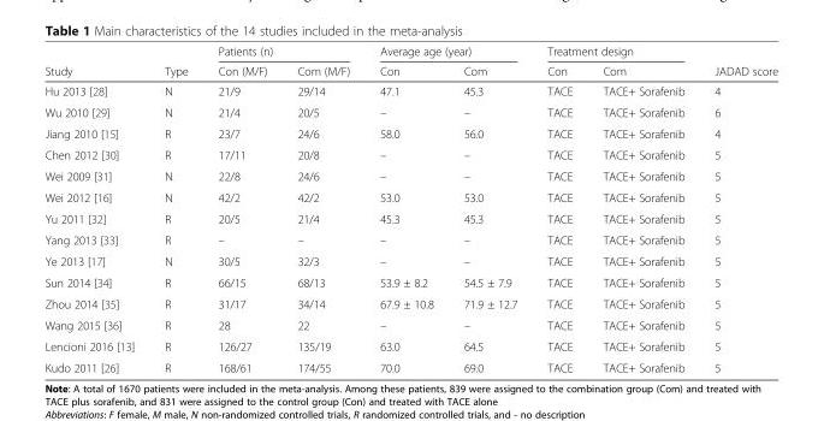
<table><thead><tr><td rowspan="2">Study</td><td rowspan="2">Type</td><td colspan="2">Patients (n)</td><td colspan="2">Average age (year)</td><td colspan="2">Treatment design</td><td rowspan="2">JADAD score</td></tr><tr><td>Con (M/F)</td><td>Com (M/F)</td><td>Con</td><td>Com</td><td>Con</td><td>Com</td></tr></thead><tbody><tr><td>Hu 2013 [28]</td><td>N</td><td>21/9</td><td>29/14</td><td>47.1</td><td>45.3</td><td>TACE</td><td>TACE+ Sorafenib</td><td>4</td></tr><tr><td>Wu 2010 [29]</td><td>N</td><td>21/4</td><td>20/5</td><td>–</td><td>–</td><td>TACE</td><td>TACE+ Sorafenib</td><td>6</td></tr><tr><td>Jiang 2010 [15]</td><td>R</td><td>23/7</td><td>24/6</td><td>58.0</td><td>56.0</td><td>TACE</td><td>TACE+ Sorafenib</td><td>4</td></tr><tr><td>Chen 2012 [30]</td><td>R</td><td>17/11</td><td>20/8</td><td>–</td><td>–</td><td>TACE</td><td>TACE+ Sorafenib</td><td>5</td></tr><tr><td>Wei 2009 [31]</td><td>N</td><td>22/8</td><td>24/6</td><td>–</td><td>–</td><td>TACE</td><td>TACE+ Sorafenib</td><td>5</td></tr><tr><td>Wei 2012 [16]</td><td>N</td><td>42/2</td><td>42/2</td><td>53.0</td><td>53.0</td><td>TACE</td><td>TACE+ Sorafenib</td><td>5</td></tr><tr><td>Yu 2011 [32]</td><td>R</td><td>20/5</td><td>21/4</td><td>45.3</td><td>45.3</td><td>TACE</td><td>TACE+ Sorafenib</td><td>5</td></tr><tr><td>Yang 2013 [33]</td><td>R</td><td>–</td><td>–</td><td>–</td><td>–</td><td>TACE</td><td>TACE+ Sorafenib</td><td>5</td></tr><tr><td>Ye 2013 [17]</td><td>N</td><td>30/5</td><td>32/3</td><td>–</td><td>–</td><td>TACE</td><td>TACE+ Sorafenib</td><td>5</td></tr><tr><td>Sun 2014 [34]</td><td>R</td><td>66/15</td><td>68/13</td><td>53.9 ± 8.2</td><td>54.5 ± 7.9</td><td>TACE</td><td>TACE+ Sorafenib</td><td>5</td></tr><tr><td>Zhou 2014 [35]</td><td>R</td><td>31/17</td><td>34/14</td><td>67.9 ± 10.8</td><td>71.9 ± 12.7</td><td>TACE</td><td>TACE+ Sorafenib</td><td>5</td></tr><tr><td>Wang 2015 [36]</td><td>R</td><td>28</td><td>22</td><td>–</td><td>–</td><td>TACE</td><td>TACE+ Sorafenib</td><td>5</td></tr><tr><td>Lencioni 2016 [13]</td><td>R</td><td>126/27</td><td>135/19</td><td>63.0</td><td>64.5</td><td>TACE</td><td>TACE+ Sorafenib</td><td>5</td></tr><tr><td>Kudo 2011 [26]</td><td>R</td><td>168/61</td><td>174/55</td><td>70.0</td><td>69.0</td><td>TACE</td><td>TACE+ Sorafenib</td><td>5</td></tr></tbody></table>